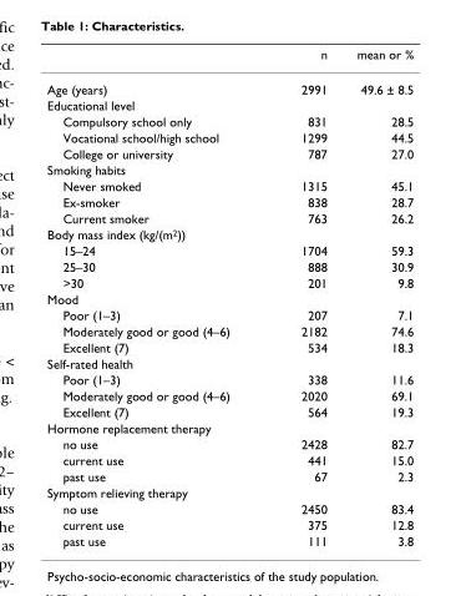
<table><thead><tr><td></td><td>n</td><td>mean or %</td></tr></thead><tbody><tr><td>Age (years)</td><td>2991</td><td>49.6 ± 8.5</td></tr><tr><td colspan="3">Educational level</td></tr><tr><td>Compulsory school only</td><td>831</td><td>28.5</td></tr><tr><td>Vocational school/high school</td><td>1299</td><td>44.5</td></tr><tr><td>College or university</td><td>787</td><td>27.0</td></tr><tr><td colspan="3">Smoking habits</td></tr><tr><td>Never smoked</td><td>1315</td><td>45.1</td></tr><tr><td>Ex-smoker</td><td>838</td><td>28.7</td></tr><tr><td>Current smoker</td><td>763</td><td>26.2</td></tr><tr><td colspan="3">Body mass index (kg/(m<sup>2</sup>))</td></tr><tr><td>15–24</td><td>1704</td><td>59.3</td></tr><tr><td>25–30</td><td>888</td><td>30.9</td></tr><tr><td>&gt;30</td><td>201</td><td>9.8</td></tr><tr><td colspan="3">Mood</td></tr><tr><td>Poor (1–3)</td><td>207</td><td>7.1</td></tr><tr><td>Moderately good or good (4–6)</td><td>2182</td><td>74.6</td></tr><tr><td>Excellent (7)</td><td>534</td><td>18.3</td></tr><tr><td colspan="3">Self-rated health</td></tr><tr><td>Poor (1–3)</td><td>338</td><td>11.6</td></tr><tr><td>Moderately good or good (4–6)</td><td>2020</td><td>69.1</td></tr><tr><td>Excellent (7)</td><td>564</td><td>19.3</td></tr><tr><td colspan="3">Hormone replacement therapy</td></tr><tr><td>no use</td><td>2428</td><td>82.7</td></tr><tr><td>current use</td><td>441</td><td>15.0</td></tr><tr><td>past use</td><td>67</td><td>2.3</td></tr><tr><td colspan="3">Symptom relieving therapy</td></tr><tr><td>no use</td><td>2450</td><td>83.4</td></tr><tr><td>current use</td><td>375</td><td>12.8</td></tr><tr><td>past use</td><td>111</td><td>3.8</td></tr></tbody></table>